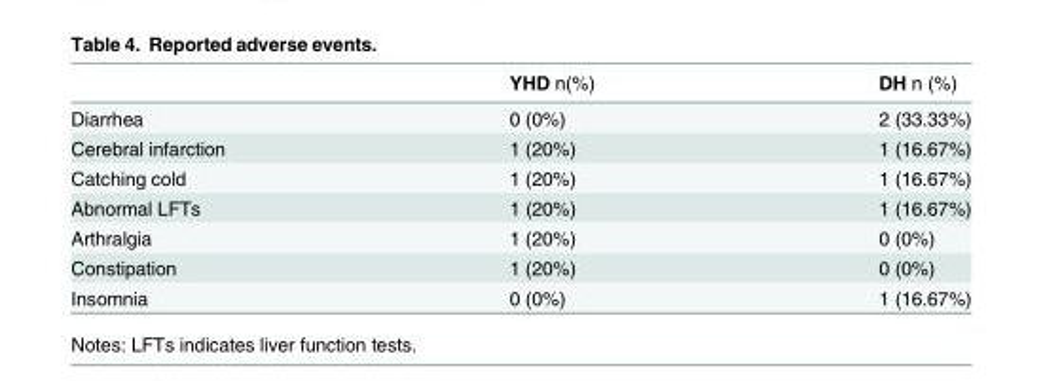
<table><thead><tr><td></td><td>YHD n(%)</td><td>DH n (%)</td></tr></thead><tbody><tr><td>Diarrhea</td><td>0 (0%)</td><td>2 (33.33%)</td></tr><tr><td>Cerebral infarction</td><td>1 (20%)</td><td>1 (16.67%)</td></tr><tr><td>Catching cold</td><td>1 (20%)</td><td>1 (16.67%)</td></tr><tr><td>Abnormal LFTs</td><td>1 (20%)</td><td>1 (16.67%)</td></tr><tr><td>Arthralgia</td><td>1 (20%)</td><td>0 (0%)</td></tr><tr><td>Constipation</td><td>1 (20%)</td><td>0 (0%)</td></tr><tr><td>Insomnia</td><td>0 (0%)</td><td>1 (16.67%)</td></tr></tbody></table>